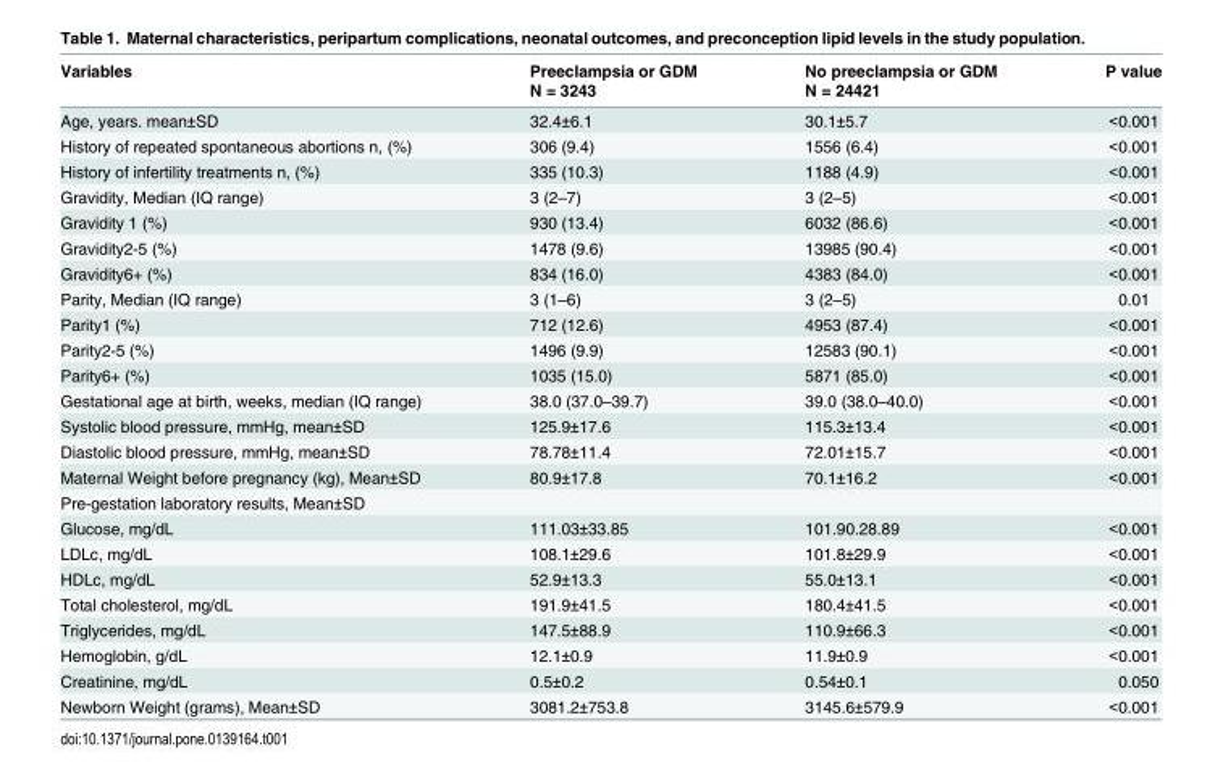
<table><thead><tr><td rowspan="2">Variables</td><td rowspan="2">Preeclampsia or GDM N = 3243</td><td rowspan="2">No preeclampsia or GDM N = 24421</td><td rowspan="2">P value</td></tr><tr></tr></thead><tbody><tr><td>Age, years. mean±SD</td><td>32.4±6.1</td><td>30.1±5.7</td><td>&lt;0.001</td></tr><tr><td>History of repeated spontaneous abortions n, (%)</td><td>306 (9.4)</td><td>1556 (6.4)</td><td>&lt;0.001</td></tr><tr><td>History of infertility treatments n, (%)</td><td>335 (10.3)</td><td>1188 (4.9)</td><td>&lt;0.001</td></tr><tr><td>Gravidity, Median (IQ range)</td><td>3 (2–7)</td><td>3 (2–5)</td><td>&lt;0.001</td></tr><tr><td>Gravidity 1 (%)</td><td>930 (13.4)</td><td>6032 (86.6)</td><td>&lt;0.001</td></tr><tr><td>Gravidity2-5 (%)</td><td>1478 (9.6)</td><td>13985 (90.4)</td><td>&lt;0.001</td></tr><tr><td>Gravidity6+ (%)</td><td>834 (16.0)</td><td>4383 (84.0)</td><td>&lt;0.001</td></tr><tr><td>Parity, Median (IQ range)</td><td>3 (1–6)</td><td>3 (2–5)</td><td>0.01</td></tr><tr><td>Parity1 (%)</td><td>712 (12.6)</td><td>4953 (87.4)</td><td>&lt;0.001</td></tr><tr><td>Parity2-5 (%)</td><td>1496 (9.9)</td><td>12583 (90.1)</td><td>&lt;0.001</td></tr><tr><td>Parity6+ (%)</td><td>1035 (15.0)</td><td>5871 (85.0)</td><td>&lt;0.001</td></tr><tr><td>Gestational age at birth, weeks, median (IQ range)</td><td>38.0 (37.0–39.7)</td><td>39.0 (38.0–40.0)</td><td>&lt;0.001</td></tr><tr><td>Systolic blood pressure, mmHg, mean±SD</td><td>125.9±17.6</td><td>115.3±13.4</td><td>&lt;0.001</td></tr><tr><td>Diastolic blood pressure, mmHg, mean±SD</td><td>78.78±11.4</td><td>72.01±15.7</td><td>&lt;0.001</td></tr><tr><td>Maternal Weight before pregnancy (kg), Mean±SD</td><td>80.9±17.8</td><td>70.1±16.2</td><td>&lt;0.001</td></tr><tr><td colspan="4">Pre-gestation laboratory results, Mean±SD</td></tr><tr><td>Glucose, mg/dL</td><td>111.03±33.85</td><td>101.90.28.89</td><td>&lt;0.001</td></tr><tr><td>LDLc, mg/dL</td><td>108.1±29.6</td><td>101.8±29.9</td><td>&lt;0.001</td></tr><tr><td>HDLc, mg/dL</td><td>52.9±13.3</td><td>55.0±13.1</td><td>&lt;0.001</td></tr><tr><td>Total cholesterol, mg/dL</td><td>191.9±41.5</td><td>180.4±41.5</td><td>&lt;0.001</td></tr><tr><td>Triglycerides, mg/dL</td><td>147.5±88.9</td><td>110.9±66.3</td><td>&lt;0.001</td></tr><tr><td>Hemoglobin, g/dL</td><td>12.1±0.9</td><td>11.9±0.9</td><td>&lt;0.001</td></tr><tr><td>Creatinine, mg/dL</td><td>0.5±0.2</td><td>0.54±0.1</td><td>0.050</td></tr><tr><td>Newborn Weight (grams), Mean±SD</td><td>3081.2±753.8</td><td>3145.6±579.9</td><td>&lt;0.001</td></tr></tbody></table>